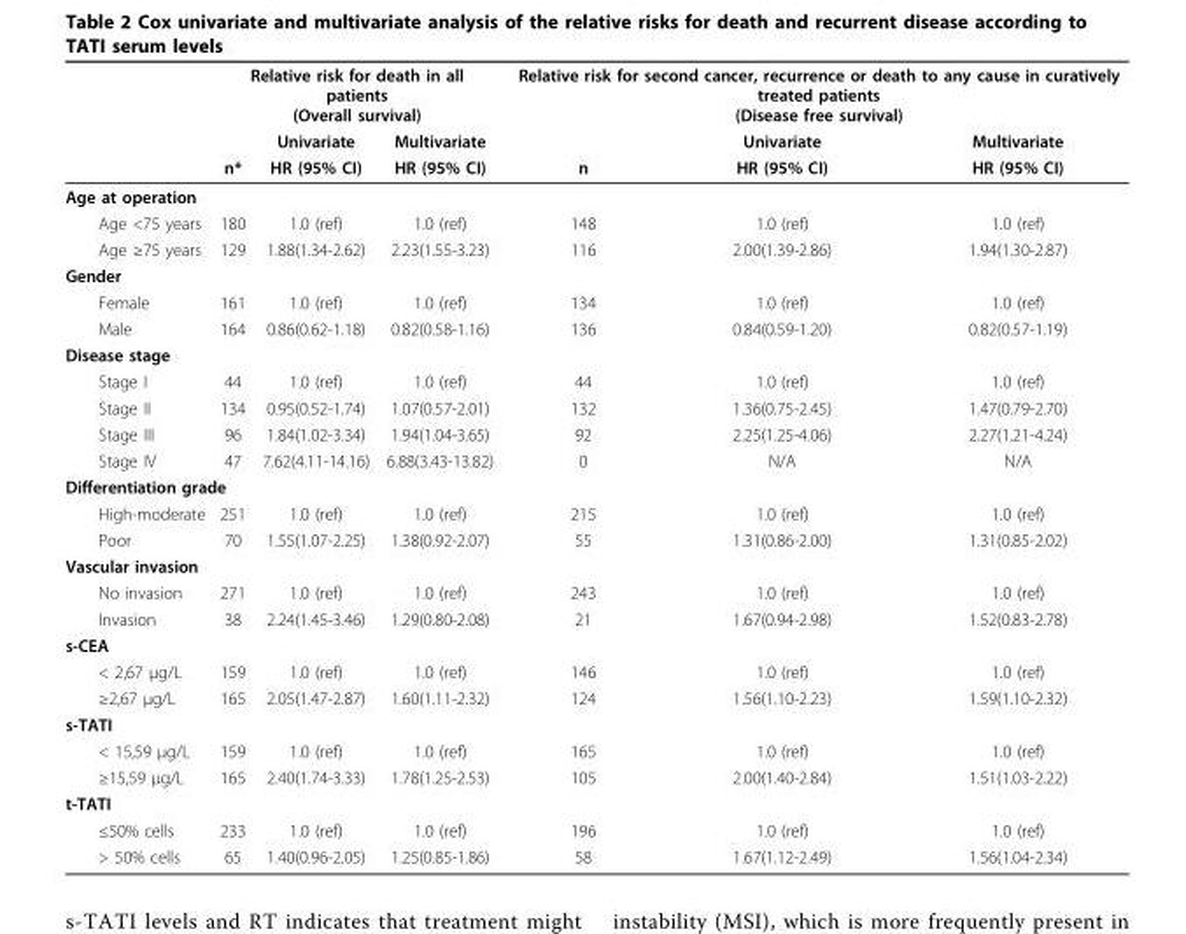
<table><thead><tr><td rowspan="3"></td><td colspan="3">Relative risk for death in all patients (Overall survival)</td><td colspan="3">Relative risk for second cancer, recurrence or death to any cause in curatively treated patients (Disease free survival)</td></tr><tr><td rowspan="2">n*</td><td rowspan="2">Univariate HR (95% CI)</td><td rowspan="2">Multivariate HR (95% CI)</td><td rowspan="2">n</td><td rowspan="2">Univariate HR (95% CI)</td><td rowspan="2">Multivariate HR (95% CI)</td></tr><tr></tr></thead><tbody><tr><td colspan="7">Age at operation</td></tr><tr><td>Age &lt;75 years</td><td>180</td><td>1.0 (ref)</td><td>1.0 (ref)</td><td>148</td><td>1.0 (ref)</td><td>1.0 (ref)</td></tr><tr><td>Age ≥75 years</td><td>129</td><td>1.88(1.34-2.62)</td><td>2.23(1.55-3.23)</td><td>116</td><td>2.00(1.39-2.86)</td><td>1.94(1.30-2.87)</td></tr><tr><td colspan="7">Gender</td></tr><tr><td>Female</td><td>161</td><td>1.0 (ref)</td><td>1.0 (ref)</td><td>134</td><td>1.0 (ref)</td><td>1.0 (ref)</td></tr><tr><td>Male</td><td>164</td><td>0.86(0.62-1.18)</td><td>0.82(0.58-1.16)</td><td>136</td><td>0.84(0.59-1.20)</td><td>0.82(0.57-1.19)</td></tr><tr><td colspan="7">Disease stage</td></tr><tr><td>Stage I</td><td>44</td><td>1.0 (ref)</td><td>1.0 (ref)</td><td>44</td><td>1.0 (ref)</td><td>1.0 (ref)</td></tr><tr><td>Stage II</td><td>134</td><td>0.95(0.52-1.74)</td><td>1.07(0.57-2.01)</td><td>132</td><td>1.36(0.75-2.45)</td><td>1.47(0.79-2.70)</td></tr><tr><td>Stage III</td><td>96</td><td>1.84(1.02-3.34)</td><td>1.94(1.04-3.65)</td><td>92</td><td>2.25(1.25-4.06)</td><td>2.27(1.21-4.24)</td></tr><tr><td>Stage IV</td><td>47</td><td>7.62(4.11-14.16)</td><td>6.88(3.43-13.82)</td><td>0</td><td>N/A</td><td>N/A</td></tr><tr><td colspan="7">Differentiation grade</td></tr><tr><td>High-moderate</td><td>251</td><td>1.0 (ref)</td><td>1.0 (ref)</td><td>215</td><td>1.0 (ref)</td><td>1.0 (ref)</td></tr><tr><td>Poor</td><td>70</td><td>1.55(1.07-2.25)</td><td>1.38(0.92-2.07)</td><td>55</td><td>1.31(0.86-2.00)</td><td>1.31(0.85-2.02)</td></tr><tr><td colspan="7">Vascular invasion</td></tr><tr><td>No invasion</td><td>271</td><td>1.0 (ref)</td><td>1.0 (ref)</td><td>243</td><td>1.0 (ref)</td><td>1.0 (ref)</td></tr><tr><td>Invasion</td><td>38</td><td>2.24(1.45-3.46)</td><td>1.29(0.80-2.08)</td><td>21</td><td>1.67(0.94-2.98)</td><td>1.52(0.83-2.78)</td></tr><tr><td colspan="7">s-CEA</td></tr><tr><td>&lt; 2,67 μg/L</td><td>159</td><td>1.0 (ref)</td><td>1.0 (ref)</td><td>146</td><td>1.0 (ref)</td><td>1.0 (ref)</td></tr><tr><td>≥2,67 μg/L</td><td>165</td><td>2.05(1.47-2.87)</td><td>1.60(1.11-2.32)</td><td>124</td><td>1.56(1.10-2.23)</td><td>1.59(1.10-2.32)</td></tr><tr><td colspan="7">s-TATI</td></tr><tr><td>&lt; 15,59 μg/L</td><td>159</td><td>1.0 (ref)</td><td>1.0 (ref)</td><td>165</td><td>1.0 (ref)</td><td>1.0 (ref)</td></tr><tr><td>≥15,59 μg/L</td><td>165</td><td>2.40(1.74-3.33)</td><td>1.78(1.25-2.53)</td><td>105</td><td>2.00(1.40-2.84)</td><td>1.51(1.03-2.22)</td></tr><tr><td colspan="7">t-TATI</td></tr><tr><td>≤50% cells</td><td>233</td><td>1.0 (ref)</td><td>1.0 (ref)</td><td>196</td><td>1.0 (ref)</td><td>1.0 (ref)</td></tr><tr><td>&gt; 50% cells</td><td>65</td><td>1.40(0.96-2.05)</td><td>1.25(0.85-1.86)</td><td>58</td><td>1.67(1.12-2.49)</td><td>1.56(1.04-2.34)</td></tr></tbody></table>